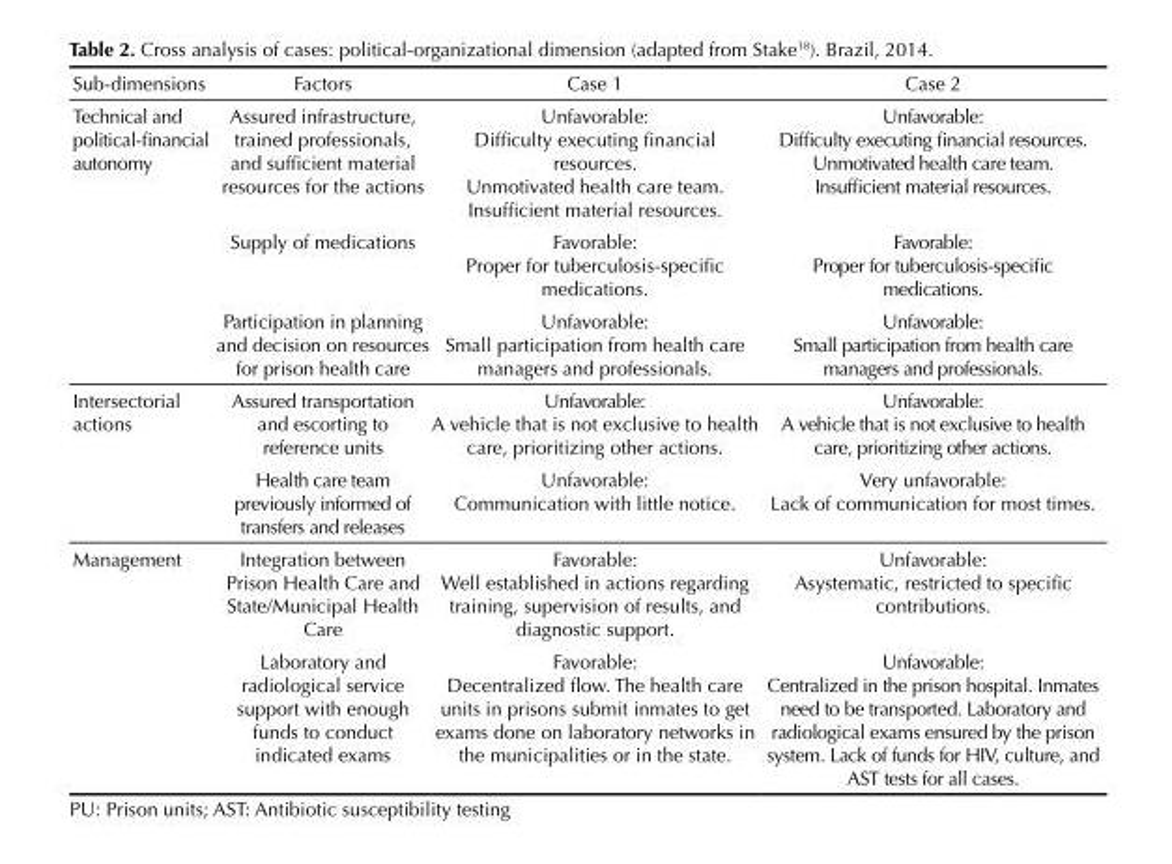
<table><thead><tr><td>Sub-dimensions</td><td>Factors</td><td>Case 1</td><td>Case 2</td></tr></thead><tbody><tr><td rowspan="3">Technical and political-financial autonomy</td><td>Assured infrastructure, trained professionals, and sufficient material resources for the actions</td><td>Unfavorable: Difficulty executing financial resources. Unmotivated health care team. Insufficient material resources.</td><td>Unfavorable: Difficulty executing financial resources. Unmotivated health care team. Insufficient material resources.</td></tr><tr><td>Supply of medications</td><td>Favorable: Proper for tuberculosis-specific medications.</td><td>Favorable: Proper for tuberculosis-specific medications.</td></tr><tr><td>Participation in planning and decision on resources for prison health care</td><td>Unfavorable: Small participation from health care managers and professionals.</td><td>Unfavorable: Small participation from health care managers and professionals.</td></tr><tr><td rowspan="2">Intersectorial actions</td><td>Assured transportation and escorting to reference units</td><td>Unfavorable: A vehicle that is not exclusive to health care, prioritizing other actions.</td><td>Unfavorable: A vehicle that is not exclusive to health care, prioritizing other actions.</td></tr><tr><td>Health care team previously informed of transfers and releases</td><td>Unfavorable: Communication with little notice.</td><td>Very unfavorable: Lack of communication for most times.</td></tr><tr><td rowspan="2">Management</td><td>Integration between Prison Health Care and State/Municipal Health Care</td><td>Favorable: Well established in actions regarding training, supervision of results, and diagnostic support.</td><td>Unfavorable: Asystematic, restricted to specific contributions.</td></tr><tr><td>Laboratory and radiological service support with enough funds to conduct indicated exams</td><td>Favorable: Decentralized flow. The health care units in prisons submit inmates to get exams done on laboratory networks in the municipalities or in the state.</td><td>Unfavorable: Centralized in the prison hospital. Inmates need to be transported. Laboratory and radiological exams ensured by the prison system. Lack of funds for HIV, culture, and AST tests for all cases.</td></tr></tbody></table>